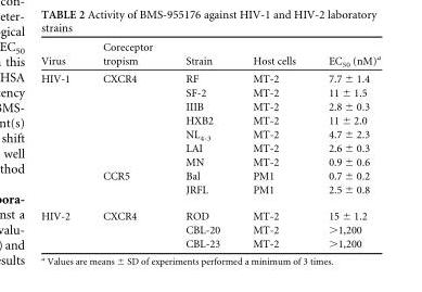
<table><thead><tr><td>Virus</td><td>Coreceptor tropism</td><td>Strain</td><td>Host cells</td><td>EC<sub>50</sub> (nM)<sup>a</sup></td></tr></thead><tbody><tr><td rowspan="9">HIV-1</td><td rowspan="7">CXCR4</td><td>RF</td><td>MT-2</td><td>7.7 ± 1.4</td></tr><tr><td>SF-2</td><td>MT-2</td><td>11 ± 1.5</td></tr><tr><td>IIIB</td><td>MT-2</td><td>2.8 ± 0.3</td></tr><tr><td>HXB2</td><td>MT-2</td><td>11 ± 2.0</td></tr><tr><td>NL<sub>4-3</sub></td><td>MT-2</td><td>4.7 ± 2.3</td></tr><tr><td>LAI</td><td>MT-2</td><td>2.6 ± 0.3</td></tr><tr><td>MN</td><td>MT-2</td><td>0.9 ± 0.6</td></tr><tr><td rowspan="2">CCR5</td><td>Bal</td><td>PM1</td><td>0.7 ± 0.2</td></tr><tr><td>JRFL</td><td>PM1</td><td>2.5 ± 0.8</td></tr><tr><td rowspan="3">HIV-2</td><td rowspan="3">CXCR4</td><td>ROD</td><td>MT-2</td><td>15 ± 1.2</td></tr><tr><td>CBL-20</td><td>MT-2</td><td>&gt;1,200</td></tr><tr><td>CBL-23</td><td>MT-2</td><td>&gt;1,200</td></tr></tbody></table>